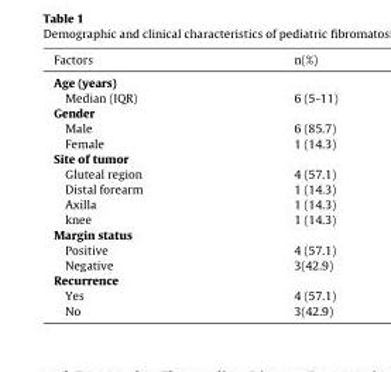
<table><thead><tr><td>Factors</td><td>n(%)</td></tr></thead><tbody><tr><td colspan="2">Age (years)</td></tr><tr><td>Median (IQR)</td><td>6 (5-11)</td></tr><tr><td colspan="2">Gender</td></tr><tr><td>Male</td><td>6 (85.7)</td></tr><tr><td>Female</td><td>1 (14.3)</td></tr><tr><td colspan="2">Site of tumor</td></tr><tr><td>Gluteal region</td><td>4 (57.1)</td></tr><tr><td>Distal forearm</td><td>1 (14.3)</td></tr><tr><td>Axilla</td><td>1 (14.3)</td></tr><tr><td>knee</td><td>1 (14.3)</td></tr><tr><td colspan="2">Margin status</td></tr><tr><td>Positive</td><td>4 (57.1)</td></tr><tr><td>Negative</td><td>3(42.9)</td></tr><tr><td colspan="2">Recurrence</td></tr><tr><td>Yes</td><td>4 (57.1)</td></tr><tr><td>No</td><td>3(42.9)</td></tr></tbody></table>